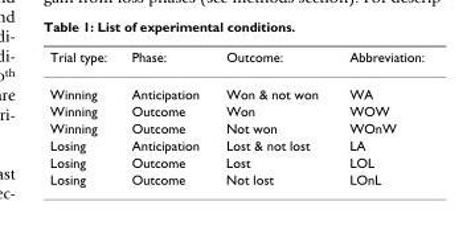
<table><thead><tr><td>Trial type:</td><td>Phase:</td><td>Outcome:</td><td>Abbreviation:</td></tr></thead><tbody><tr><td>Winning</td><td>Anticipation</td><td>Won &amp; not won</td><td>WA</td></tr><tr><td>Winning</td><td>Outcome</td><td>Won</td><td>WOW</td></tr><tr><td>Winning</td><td>Outcome</td><td>Not won</td><td>WOnW</td></tr><tr><td>Losing</td><td>Anticipation</td><td>Lost &amp; not lost</td><td>LA</td></tr><tr><td>Losing</td><td>Outcome</td><td>Lost</td><td>LOL</td></tr><tr><td>Losing</td><td>Outcome</td><td>Not lost</td><td>LOnL</td></tr></tbody></table>